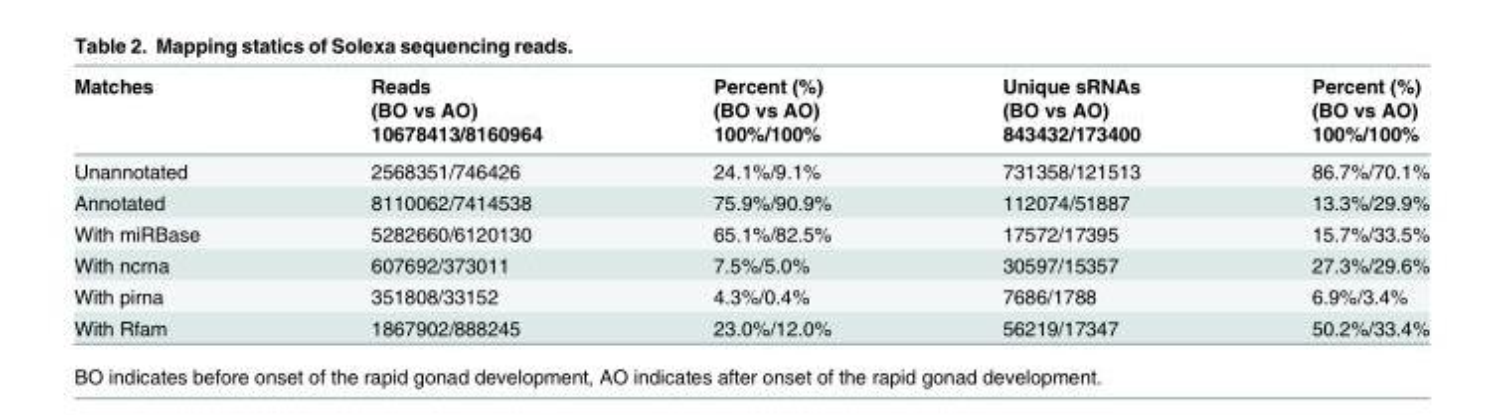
<table><thead><tr><td rowspan="3">Matches</td><td rowspan="3">Reads (BO vs AO) 10678413/8160964</td><td rowspan="3">Percent (%) (BO vs AO) 100%/100%</td><td rowspan="3">Unique sRNAs (BO vs AO) 843432/173400</td><td rowspan="3">Percent (%) (BO vs AO) 100%/100%</td></tr><tr></tr><tr></tr></thead><tbody><tr><td>Unannotated</td><td>2568351/746426</td><td>24.1%/9.1%</td><td>731358/121513</td><td>86.7%/70.1%</td></tr><tr><td>Annotated</td><td>8110062/7414538</td><td>75.9%/90.9%</td><td>112074/51887</td><td>13.3%/29.9%</td></tr><tr><td>With miRBase</td><td>5282660/6120130</td><td>65.1%/82.5%</td><td>17572/17395</td><td>15.7%/33.5%</td></tr><tr><td>With ncrna</td><td>607692/373011</td><td>7.5%/5.0%</td><td>30597/15357</td><td>27.3%/29.6%</td></tr><tr><td>With pirna</td><td>351808/33152</td><td>4.3%/0.4%</td><td>7686/1788</td><td>6.9%/3.4%</td></tr><tr><td>With Rfam</td><td>1867902/888245</td><td>23.0%/12.0%</td><td>56219/17347</td><td>50.2%/33.4%</td></tr></tbody></table>